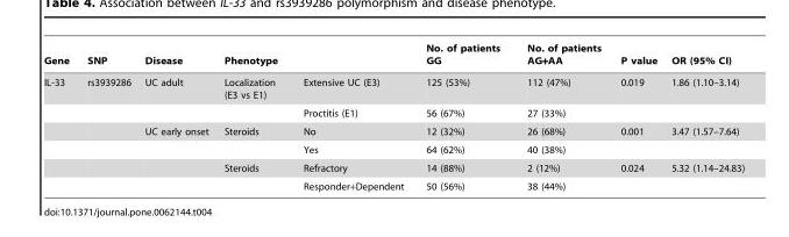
<table><thead><tr><td>Gene</td><td>SNP</td><td>Disease</td><td>Phenotype</td><td></td><td>No. of patients GG</td><td>No. of patients AG+AA</td><td>P value</td><td>OR (95% CI)</td></tr></thead><tbody><tr><td rowspan="6">IL-33</td><td>rs3939286</td><td>UC adult</td><td>Localization (E3 vs E1)</td><td>Extensive UC (E3)</td><td>125 (53%)</td><td>112 (47%)</td><td>0.019</td><td>1.86 (1.10–3.14)</td></tr><tr><td></td><td></td><td></td><td>Proctitis (E1)</td><td>56 (67%)</td><td>27 (33%)</td><td></td><td></td></tr><tr><td></td><td>UC early onset</td><td>Steroids</td><td>No</td><td>12 (32%)</td><td>26 (68%)</td><td>0.001</td><td>3.47 (1.57–7.64)</td></tr><tr><td></td><td></td><td></td><td>Yes</td><td>64 (62%)</td><td>40 (38%)</td><td></td><td></td></tr><tr><td></td><td></td><td>Steroids</td><td>Refractory</td><td>14 (88%)</td><td>2 (12%)</td><td>0.024</td><td>5.32 (1.14–24.83)</td></tr><tr><td></td><td></td><td></td><td>Responder+Dependent</td><td>50 (56%)</td><td>38 (44%)</td><td></td><td></td></tr></tbody></table>